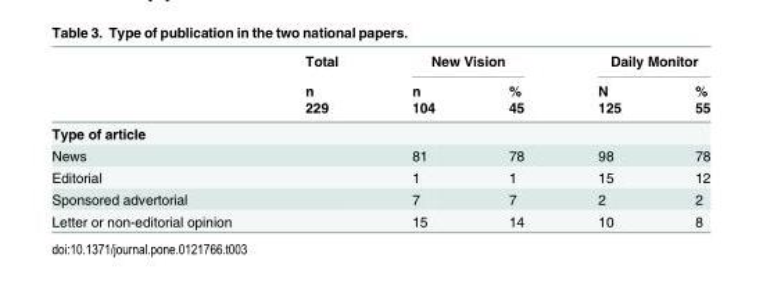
<table><thead><tr><td rowspan="3"></td><td rowspan="3">Total n 229</td><td colspan="2">New Vision</td><td colspan="2">Daily Monitor</td></tr><tr><td rowspan="2">n 104</td><td rowspan="2">% 45</td><td rowspan="2">N 125</td><td rowspan="2">% 55</td></tr><tr></tr></thead><tbody><tr><td colspan="6">Type of article</td></tr><tr><td>News</td><td></td><td>81</td><td>78</td><td>98</td><td>78</td></tr><tr><td>Editorial</td><td></td><td>1</td><td>1</td><td>15</td><td>12</td></tr><tr><td>Sponsored advertorial</td><td></td><td>7</td><td>7</td><td>2</td><td>2</td></tr><tr><td>Letter or non-editorial opinion</td><td></td><td>15</td><td>14</td><td>10</td><td>8</td></tr></tbody></table>